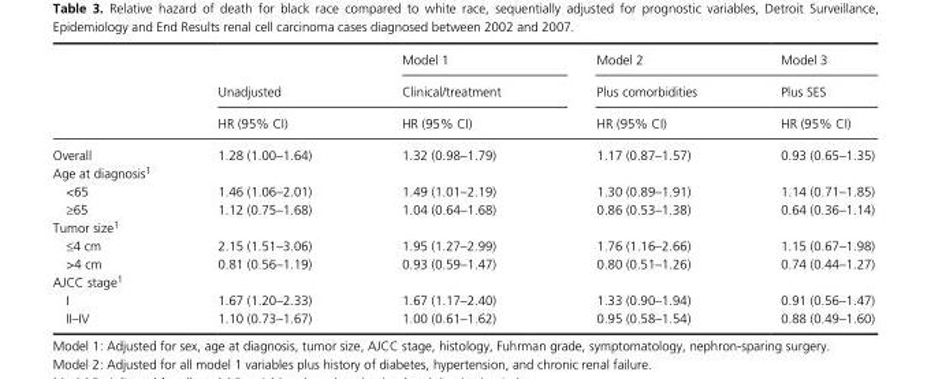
<table><thead><tr><td rowspan="3"></td><td rowspan="3">Unadjusted HR (95% CI)</td><td rowspan="3">Model 1 Clinical/treatment HR (95% CI)</td><td rowspan="3">Model 2 Plus comorbidities HR (95% CI)</td><td rowspan="3">Model 3 Plus SES HR (95% CI)</td></tr><tr></tr><tr></tr></thead><tbody><tr><td>Overall</td><td>1.28 (1.00–1.64)</td><td>1.32 (0.98–1.79)</td><td>1.17 (0.87–1.57)</td><td>0.93 (0.65–1.35)</td></tr><tr><td colspan="5">Age at diagnosis1</td></tr><tr><td>&lt;65</td><td>1.46 (1.06–2.01)</td><td>1.49 (1.01–2.19)</td><td>1.30 (0.89–1.91)</td><td>1.14 (0.71–1.85)</td></tr><tr><td>≥65</td><td>1.12 (0.75–1.68)</td><td>1.04 (0.64–1.68)</td><td>0.86 (0.53–1.38)</td><td>0.64 (0.36–1.14)</td></tr><tr><td colspan="5">Tumor size1</td></tr><tr><td>≤4 cm</td><td>2.15 (1.51–3.06)</td><td>1.95 (1.27–2.99)</td><td>1.76 (1.16–2.66)</td><td>1.15 (0.67–1.98)</td></tr><tr><td>&gt;4 cm</td><td>0.81 (0.56–1.19)</td><td>0.93 (0.59–1.47)</td><td>0.80 (0.51–1.26)</td><td>0.74 (0.44–1.27)</td></tr><tr><td colspan="5">AJCC stage1</td></tr><tr><td>I</td><td>1.67 (1.20–2.33)</td><td>1.67 (1.17–2.40)</td><td>1.33 (0.90–1.94)</td><td>0.91 (0.56–1.47)</td></tr><tr><td>II–IV</td><td>1.10 (0.73–1.67)</td><td>1.00 (0.61–1.62)</td><td>0.95 (0.58–1.54)</td><td>0.88 (0.49–1.60)</td></tr></tbody></table>